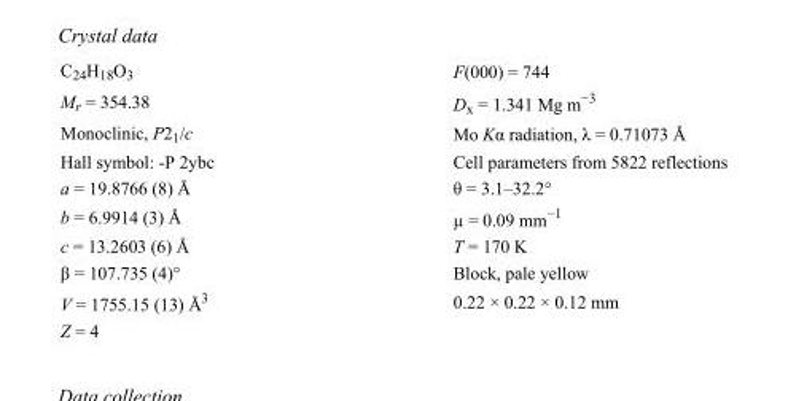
<table><tbody><tr><td>C<sub>24</sub>H<sub>18</sub>O<sub>3</sub></td><td>F(000) = 744</td></tr><tr><td>M<sub>r</sub> = 354.38</td><td>D<sub>x</sub> = 1.341 Mg m<sup>−3</sup></td></tr><tr><td>Monoclinic, P2<sub>1</sub>/c</td><td>Mo Kα radiation, λ = 0.71073 Å</td></tr><tr><td>Hall symbol: -P 2ybc</td><td>Cell parameters from 5822 reflections</td></tr><tr><td>a = 19.8766 (8) Å</td><td>θ = 3.1–32.2°</td></tr><tr><td>b = 6.9914 (3) Å</td><td>µ = 0.09 mm<sup>−1</sup></td></tr><tr><td>c = 13.2603 (6) Å</td><td>T = 170 K</td></tr><tr><td>β = 107.735 (4)°</td><td>Block, pale yellow</td></tr><tr><td>V = 1755.15 (13) Å<sup>3</sup></td><td>0.22 × 0.22 × 0.12 mm</td></tr><tr><td>Z = 4</td><td></td></tr></tbody></table>